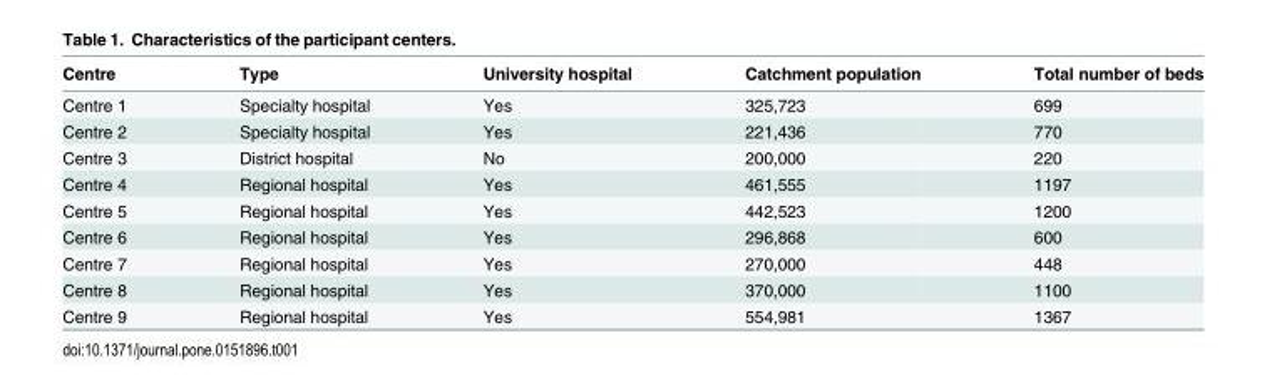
<table><thead><tr><td>Centre</td><td>Type</td><td>University hospital</td><td>Catchment population</td><td>Total number of beds</td></tr></thead><tbody><tr><td>Centre 1</td><td>Specialty hospital</td><td>Yes</td><td>325,723</td><td>699</td></tr><tr><td>Centre 2</td><td>Specialty hospital</td><td>Yes</td><td>221,436</td><td>770</td></tr><tr><td>Centre 3</td><td>District hospital</td><td>No</td><td>200,000</td><td>220</td></tr><tr><td>Centre 4</td><td>Regional hospital</td><td>Yes</td><td>461,555</td><td>1197</td></tr><tr><td>Centre 5</td><td>Regional hospital</td><td>Yes</td><td>442,523</td><td>1200</td></tr><tr><td>Centre 6</td><td>Regional hospital</td><td>Yes</td><td>296,868</td><td>600</td></tr><tr><td>Centre 7</td><td>Regional hospital</td><td>Yes</td><td>270,000</td><td>448</td></tr><tr><td>Centre 8</td><td>Regional hospital</td><td>Yes</td><td>370,000</td><td>1100</td></tr><tr><td>Centre 9</td><td>Regional hospital</td><td>Yes</td><td>554,981</td><td>1367</td></tr></tbody></table>